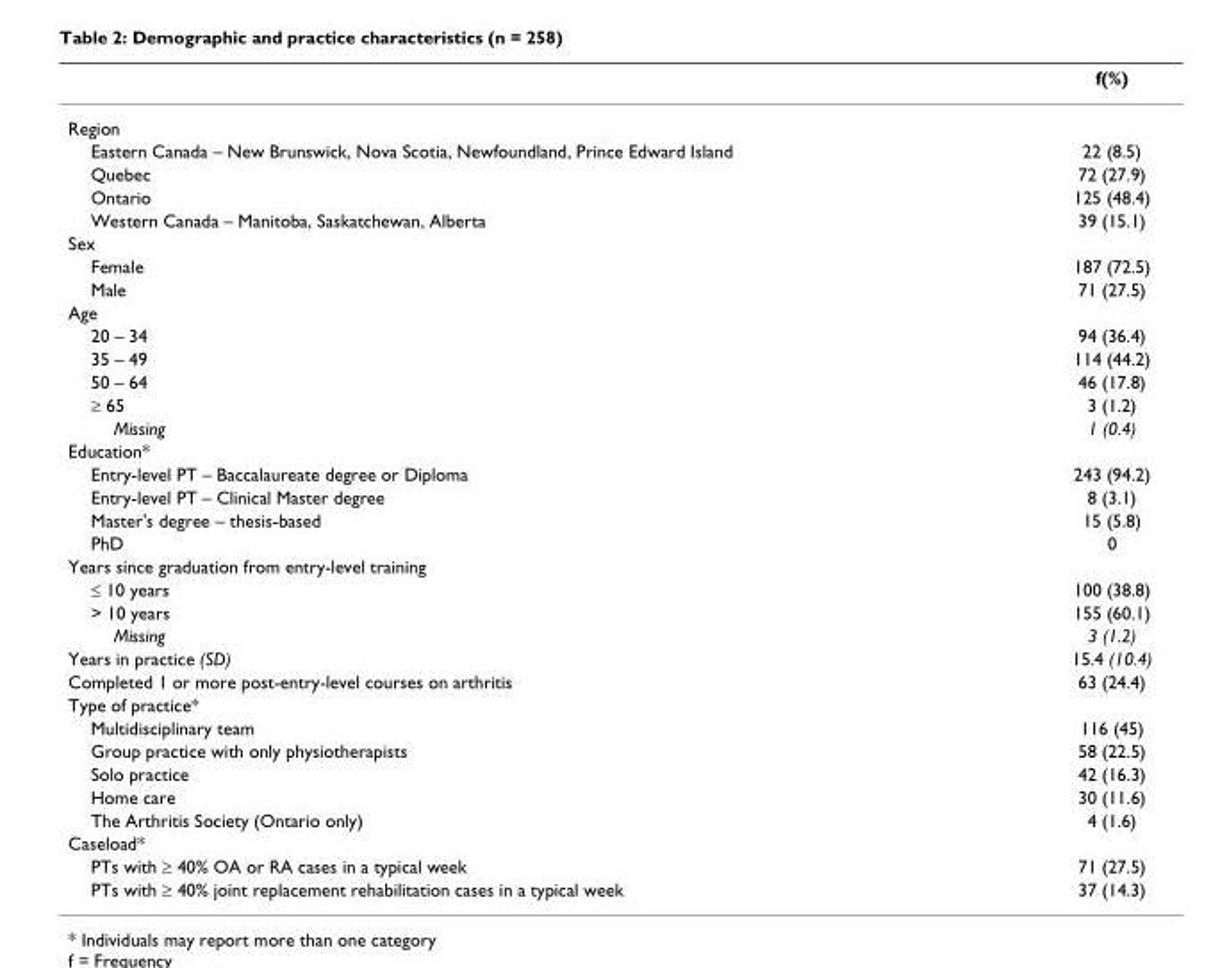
<table><thead><tr><td></td><td>f(%)</td></tr></thead><tbody><tr><td colspan="2">Region</td></tr><tr><td>Eastern Canada – New Brunswick, Nova Scotia, Newfoundland, Prince Edward Island</td><td>22 (8.5)</td></tr><tr><td>Quebec</td><td>72 (27.9)</td></tr><tr><td>Ontario</td><td>125 (48.4)</td></tr><tr><td>Western Canada – Manitoba, Saskatchewan, Alberta</td><td>39 (15.1)</td></tr><tr><td colspan="2">Sex</td></tr><tr><td>Female</td><td>187 (72.5)</td></tr><tr><td>Male</td><td>71 (27.5)</td></tr><tr><td colspan="2">Age</td></tr><tr><td>20 – 34</td><td>94 (36.4)</td></tr><tr><td>35 – 49</td><td>114 (44.2)</td></tr><tr><td>50 – 64</td><td>46 (17.8)</td></tr><tr><td>≥ 65</td><td>3 (1.2)</td></tr><tr><td>Missing</td><td>1 (0.4)</td></tr><tr><td colspan="2">Education*</td></tr><tr><td>Entry-level PT – Baccalaureate degree or Diploma</td><td>243 (94.2)</td></tr><tr><td>Entry-level PT – Clinical Master degree</td><td>8 (3.1)</td></tr><tr><td>Master&#x27;s degree – thesis-based</td><td>15 (5.8)</td></tr><tr><td>PhD</td><td>0</td></tr><tr><td colspan="2">Years since graduation from entry-level training</td></tr><tr><td>≤ 10 years</td><td>100 (38.8)</td></tr><tr><td>&gt; 10 years</td><td>155 (60.1)</td></tr><tr><td>Missing</td><td>3 (1.2)</td></tr><tr><td>Years in practice (SD)</td><td>15.4 (10.4)</td></tr><tr><td>Completed 1 or more post-entry-level courses on arthritis</td><td>63 (24.4)</td></tr><tr><td colspan="2">Type of practice*</td></tr><tr><td>Multidisciplinary team</td><td>116 (45)</td></tr><tr><td>Group practice with only physiotherapists</td><td>58 (22.5)</td></tr><tr><td>Solo practice</td><td>42 (16.3)</td></tr><tr><td>Home care</td><td>30 (11.6)</td></tr><tr><td>The Arthritis Society (Ontario only)</td><td>4 (1.6)</td></tr><tr><td colspan="2">Caseload*</td></tr><tr><td>PTs with ≥ 40% OA or RA cases in a typical week</td><td>71 (27.5)</td></tr><tr><td>PTs with ≥ 40% joint replacement rehabilitation cases in a typical week</td><td>37 (14.3)</td></tr></tbody></table>